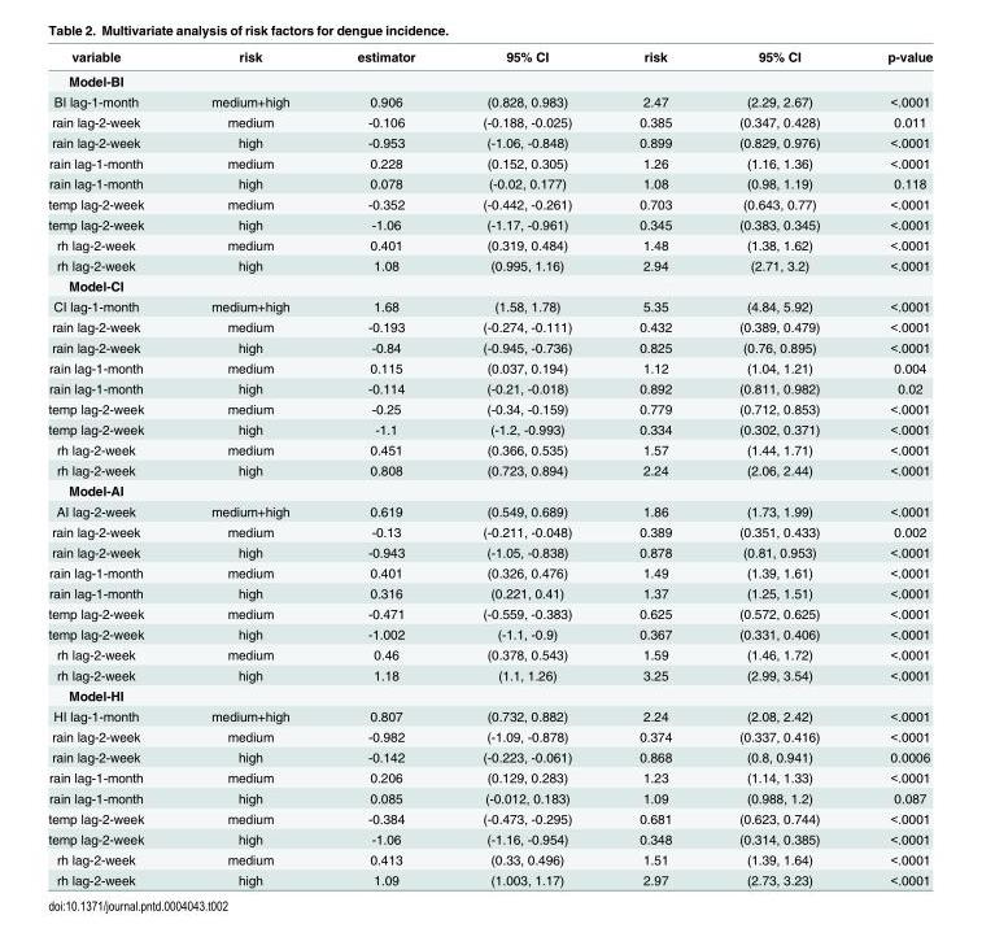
<table><thead><tr><td>variable</td><td>risk</td><td>estimator</td><td>95% CI</td><td>risk</td><td>95% CI</td><td>p-value</td></tr></thead><tbody><tr><td colspan="7">Model-BI</td></tr><tr><td>BI lag-1-month</td><td>medium+high</td><td>0.906</td><td>(0.828, 0.983)</td><td>2.47</td><td>(2.29, 2.67)</td><td>&lt;.0001</td></tr><tr><td>rain lag-2-week</td><td>medium</td><td>-0.106</td><td>(-0.188, -0.025)</td><td>0.385</td><td>(0.347, 0.428)</td><td>0.011</td></tr><tr><td>rain lag-2-week</td><td>high</td><td>-0.953</td><td>(-1.06, -0.848)</td><td>0.899</td><td>(0.829, 0.976)</td><td>&lt;.0001</td></tr><tr><td>rain lag-1-month</td><td>medium</td><td>0.228</td><td>(0.152, 0.305)</td><td>1.26</td><td>(1.16, 1.36)</td><td>&lt;.0001</td></tr><tr><td>rain lag-1-month</td><td>high</td><td>0.078</td><td>(-0.02, 0.177)</td><td>1.08</td><td>(0.98, 1.19)</td><td>0.118</td></tr><tr><td>temp lag-2-week</td><td>medium</td><td>-0.352</td><td>(-0.442, -0.261)</td><td>0.703</td><td>(0.643, 0.77)</td><td>&lt;.0001</td></tr><tr><td>temp lag-2-week</td><td>high</td><td>-1.06</td><td>(-1.17, -0.961)</td><td>0.345</td><td>(0.383, 0.345)</td><td>&lt;.0001</td></tr><tr><td>rh lag-2-week</td><td>medium</td><td>0.401</td><td>(0.319, 0.484)</td><td>1.48</td><td>(1.38, 1.62)</td><td>&lt;.0001</td></tr><tr><td>rh lag-2-week</td><td>high</td><td>1.08</td><td>(0.995, 1.16)</td><td>2.94</td><td>(2.71, 3.2)</td><td>&lt;.0001</td></tr><tr><td colspan="7">Model-CI</td></tr><tr><td>CI lag-1-month</td><td>medium+high</td><td>1.68</td><td>(1.58, 1.78)</td><td>5.35</td><td>(4.84, 5.92)</td><td>&lt;.0001</td></tr><tr><td>rain lag-2-week</td><td>medium</td><td>-0.193</td><td>(-0.274, -0.111)</td><td>0.432</td><td>(0.389, 0.479)</td><td>&lt;.0001</td></tr><tr><td>rain lag-2-week</td><td>high</td><td>-0.84</td><td>(-0.945, -0.736)</td><td>0.825</td><td>(0.76, 0.895)</td><td>&lt;.0001</td></tr><tr><td>rain lag-1-month</td><td>medium</td><td>0.115</td><td>(0.037, 0.194)</td><td>1.12</td><td>(1.04, 1.21)</td><td>0.004</td></tr><tr><td>rain lag-1-month</td><td>high</td><td>-0.114</td><td>(-0.21, -0.018)</td><td>0.892</td><td>(0.811, 0.982)</td><td>0.02</td></tr><tr><td>temp lag-2-week</td><td>medium</td><td>-0.25</td><td>(-0.34, -0.159)</td><td>0.779</td><td>(0.712, 0.853)</td><td>&lt;.0001</td></tr><tr><td>temp lag-2-week</td><td>high</td><td>-1.1</td><td>(-1.2, -0.993)</td><td>0.334</td><td>(0.302, 0.371)</td><td>&lt;.0001</td></tr><tr><td>rh lag-2-week</td><td>medium</td><td>0.451</td><td>(0.366, 0.535)</td><td>1.57</td><td>(1.44, 1.71)</td><td>&lt;.0001</td></tr><tr><td>rh lag-2-week</td><td>high</td><td>0.808</td><td>(0.723, 0.894)</td><td>2.24</td><td>(2.06, 2.44)</td><td>&lt;.0001</td></tr><tr><td colspan="7">Model-AI</td></tr><tr><td>AI lag-2-week</td><td>medium+high</td><td>0.619</td><td>(0.549, 0.689)</td><td>1.86</td><td>(1.73, 1.99)</td><td>&lt;.0001</td></tr><tr><td>rain lag-2-week</td><td>medium</td><td>-0.13</td><td>(-0.211, -0.048)</td><td>0.389</td><td>(0.351, 0.433)</td><td>0.002</td></tr><tr><td>rain lag-2-week</td><td>high</td><td>-0.943</td><td>(-1.05, -0.838)</td><td>0.878</td><td>(0.81, 0.953)</td><td>&lt;.0001</td></tr><tr><td>rain lag-1-month</td><td>medium</td><td>0.401</td><td>(0.326, 0.476)</td><td>1.49</td><td>(1.39, 1.61)</td><td>&lt;.0001</td></tr><tr><td>rain lag-1-month</td><td>high</td><td>0.316</td><td>(0.221, 0.41)</td><td>1.37</td><td>(1.25, 1.51)</td><td>&lt;.0001</td></tr><tr><td>temp lag-2-week</td><td>medium</td><td>-0.471</td><td>(-0.559, -0.383)</td><td>0.625</td><td>(0.572, 0.625)</td><td>&lt;.0001</td></tr><tr><td>temp lag-2-week</td><td>high</td><td>-1.002</td><td>(-1.1, -0.9)</td><td>0.367</td><td>(0.331, 0.406)</td><td>&lt;.0001</td></tr><tr><td>rh lag-2-week</td><td>medium</td><td>0.46</td><td>(0.378, 0.543)</td><td>1.59</td><td>(1.46, 1.72)</td><td>&lt;.0001</td></tr><tr><td>rh lag-2-week</td><td>high</td><td>1.18</td><td>(1.1, 1.26)</td><td>3.25</td><td>(2.99, 3.54)</td><td>&lt;.0001</td></tr><tr><td colspan="7">Model-HI</td></tr><tr><td>HI lag-1-month</td><td>medium+high</td><td>0.807</td><td>(0.732, 0.882)</td><td>2.24</td><td>(2.08, 2.42)</td><td>&lt;.0001</td></tr><tr><td>rain lag-2-week</td><td>medium</td><td>-0.982</td><td>(-1.09, -0.878)</td><td>0.374</td><td>(0.337, 0.416)</td><td>&lt;.0001</td></tr><tr><td>rain lag-2-week</td><td>high</td><td>-0.142</td><td>(-0.223, -0.061)</td><td>0.868</td><td>(0.8, 0.941)</td><td>0.0006</td></tr><tr><td>rain lag-1-month</td><td>medium</td><td>0.206</td><td>(0.129, 0.283)</td><td>1.23</td><td>(1.14, 1.33)</td><td>&lt;.0001</td></tr><tr><td>rain lag-1-month</td><td>high</td><td>0.085</td><td>(-0.012, 0.183)</td><td>1.09</td><td>(0.988, 1.2)</td><td>0.087</td></tr><tr><td>temp lag-2-week</td><td>medium</td><td>-0.384</td><td>(-0.473, -0.295)</td><td>0.681</td><td>(0.623, 0.744)</td><td>&lt;.0001</td></tr><tr><td>temp lag-2-week</td><td>high</td><td>-1.06</td><td>(-1.16, -0.954)</td><td>0.348</td><td>(0.314, 0.385)</td><td>&lt;.0001</td></tr><tr><td>rh lag-2-week</td><td>medium</td><td>0.413</td><td>(0.33, 0.496)</td><td>1.51</td><td>(1.39, 1.64)</td><td>&lt;.0001</td></tr><tr><td>rh lag-2-week</td><td>high</td><td>1.09</td><td>(1.003, 1.17)</td><td>2.97</td><td>(2.73, 3.23)</td><td>&lt;.0001</td></tr></tbody></table>